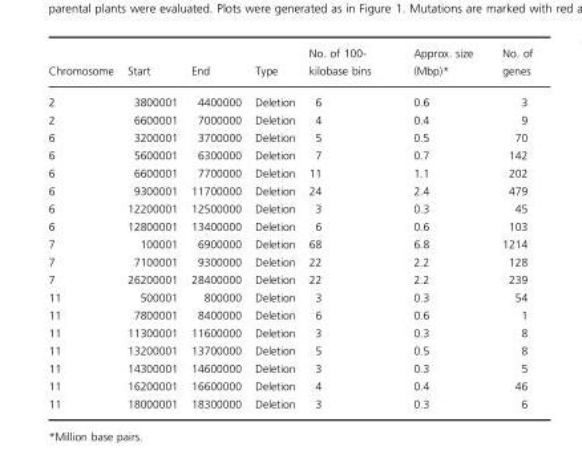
<table><thead><tr><td>Chromosome</td><td>Start</td><td>End</td><td>Type</td><td>No. of 100- kilobase bins</td><td>Approx. size (Mbp)*</td><td>No. of genes</td></tr></thead><tbody><tr><td>2</td><td>3800001</td><td>4400000</td><td>Deletion</td><td>6</td><td>0.6</td><td>3</td></tr><tr><td>2</td><td>6600001</td><td>7000000</td><td>Deletion</td><td>4</td><td>0.4</td><td>9</td></tr><tr><td>6</td><td>3200001</td><td>3700000</td><td>Deletion</td><td>5</td><td>0.5</td><td>70</td></tr><tr><td>6</td><td>5600001</td><td>6300000</td><td>Deletion</td><td>7</td><td>0.7</td><td>142</td></tr><tr><td>6</td><td>6600001</td><td>7700000</td><td>Deletion</td><td>11</td><td>1.1</td><td>202</td></tr><tr><td>6</td><td>9300001</td><td>11700000</td><td>Deletion</td><td>24</td><td>2.4</td><td>479</td></tr><tr><td>6</td><td>12200001</td><td>12500000</td><td>Deletion</td><td>3</td><td>0.3</td><td>45</td></tr><tr><td>6</td><td>12800001</td><td>13400000</td><td>Deletion</td><td>6</td><td>0.6</td><td>103</td></tr><tr><td>7</td><td>100001</td><td>6900000</td><td>Deletion</td><td>68</td><td>6.8</td><td>1214</td></tr><tr><td>7</td><td>7100001</td><td>9300000</td><td>Deletion</td><td>22</td><td>2.2</td><td>128</td></tr><tr><td>7</td><td>26200001</td><td>28400000</td><td>Deletion</td><td>22</td><td>2.2</td><td>239</td></tr><tr><td>11</td><td>500001</td><td>800000</td><td>Deletion</td><td>3</td><td>0.3</td><td>54</td></tr><tr><td>11</td><td>7800001</td><td>8400000</td><td>Deletion</td><td>6</td><td>0.6</td><td>1</td></tr><tr><td>11</td><td>11300001</td><td>11600000</td><td>Deletion</td><td>3</td><td>0.3</td><td>8</td></tr><tr><td>11</td><td>13200001</td><td>13700000</td><td>Deletion</td><td>5</td><td>0.5</td><td>8</td></tr><tr><td>11</td><td>14300001</td><td>14600000</td><td>Deletion</td><td>3</td><td>0.3</td><td>5</td></tr><tr><td>11</td><td>16200001</td><td>16600000</td><td>Deletion</td><td>4</td><td>0.4</td><td>46</td></tr><tr><td>11</td><td>18000001</td><td>18300000</td><td>Deletion</td><td>3</td><td>0.3</td><td>6</td></tr></tbody></table>